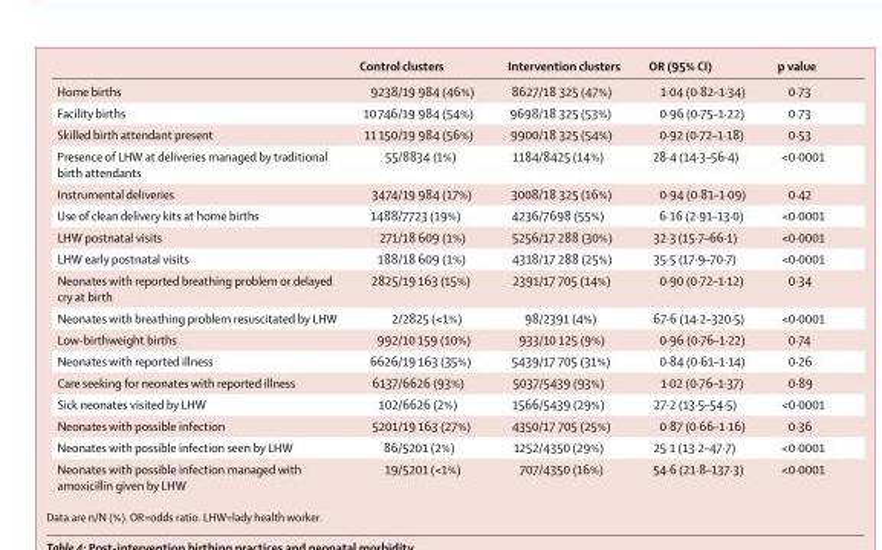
<table><thead><tr><td></td><td>Control clusters</td><td>Intervention clusters</td><td>OR (95% CI)</td><td>p value</td></tr></thead><tbody><tr><td>Home births</td><td>9238/19 984 (46%)</td><td>8627/18 325 (47%)</td><td>1·04 (0·82–1·34)</td><td>0·73</td></tr><tr><td>Facility births</td><td>10 746/19 984 (54%)</td><td>9698/18 325 (53%)</td><td>0·96 (0·75–1·22)</td><td>0·73</td></tr><tr><td>Skilled birth attendant present</td><td>11 150/19 984 (56%)</td><td>9900/18 325 (54%)</td><td>0·92 (0·72–1·18)</td><td>0·53</td></tr><tr><td>Presence of LHW at deliveries managed by traditional birth attendants</td><td>55/8834 (1%)</td><td>1184/8425 (14%)</td><td>28·4 (14·3–56·4)</td><td>&lt;0·0001</td></tr><tr><td>Instrumental deliveries</td><td>3474/19 984 (17%)</td><td>3008/18 325 (16%)</td><td>0·94 (0·81–1·09)</td><td>0·42</td></tr><tr><td>Use of clean delivery kits at home births</td><td>1488/7723 (19%)</td><td>4236/7698 (55%)</td><td>6·16 (2·91–13·0)</td><td>&lt;0·0001</td></tr><tr><td>LHW postnatal visits</td><td>271/18 609 (1%)</td><td>5256/17 288 (30%)</td><td>32·3 (15·7–66·1)</td><td>&lt;0·0001</td></tr><tr><td>LHW early postnatal visits</td><td>188/18 609 (1%)</td><td>4318/17 288 (25%)</td><td>35·5 (17·9–70·7)</td><td>&lt;0·0001</td></tr><tr><td>Neonates with reported breathing problem or delayed cry at birth</td><td>2825/19 163 (15%)</td><td>2391/17 705 (14%)</td><td>0·90 (0·72–1·12)</td><td>0·34</td></tr><tr><td>Neonates with breathing problem resuscitated by LHW</td><td>2/2825 (&lt;1%)</td><td>98/2391 (4%)</td><td>67·6 (14·2–320·5)</td><td>&lt;0·0001</td></tr><tr><td>Low-birthweight births</td><td>992/10 159 (10%)</td><td>933/10 125 (9%)</td><td>0·96 (0·76–1·22)</td><td>0·74</td></tr><tr><td>Neonates with reported illness</td><td>6626/19 163 (35%)</td><td>5439/17 705 (31%)</td><td>0·84 (0·61–1·14)</td><td>0·26</td></tr><tr><td>Care seeking for neonates with reported illness</td><td>6137/6626 (93%)</td><td>5037/5439 (93%)</td><td>1·02 (0·76–1·37)</td><td>0·89</td></tr><tr><td>Sick neonates visited by LHW</td><td>102/6626 (2%)</td><td>1566/5439 (29%)</td><td>27·2 (13·5–54·5)</td><td>&lt;0·0001</td></tr><tr><td>Neonates with possible infection</td><td>5201/19 163 (27%)</td><td>4350/17 705 (25%)</td><td>0·87 (0·66–1·16)</td><td>0·36</td></tr><tr><td>Neonates with possible infection seen by LHW</td><td>86/5201 (2%)</td><td>1252/4350 (29%)</td><td>25·1 (13·2–47·7)</td><td>&lt;0·0001</td></tr><tr><td>Neonates with possible infection managed with amoxicillin given by LHW</td><td>19/5201 (&lt;1%)</td><td>707/4350 (16%)</td><td>54·6 (21·8–137·3)</td><td>&lt;0·0001</td></tr></tbody></table>